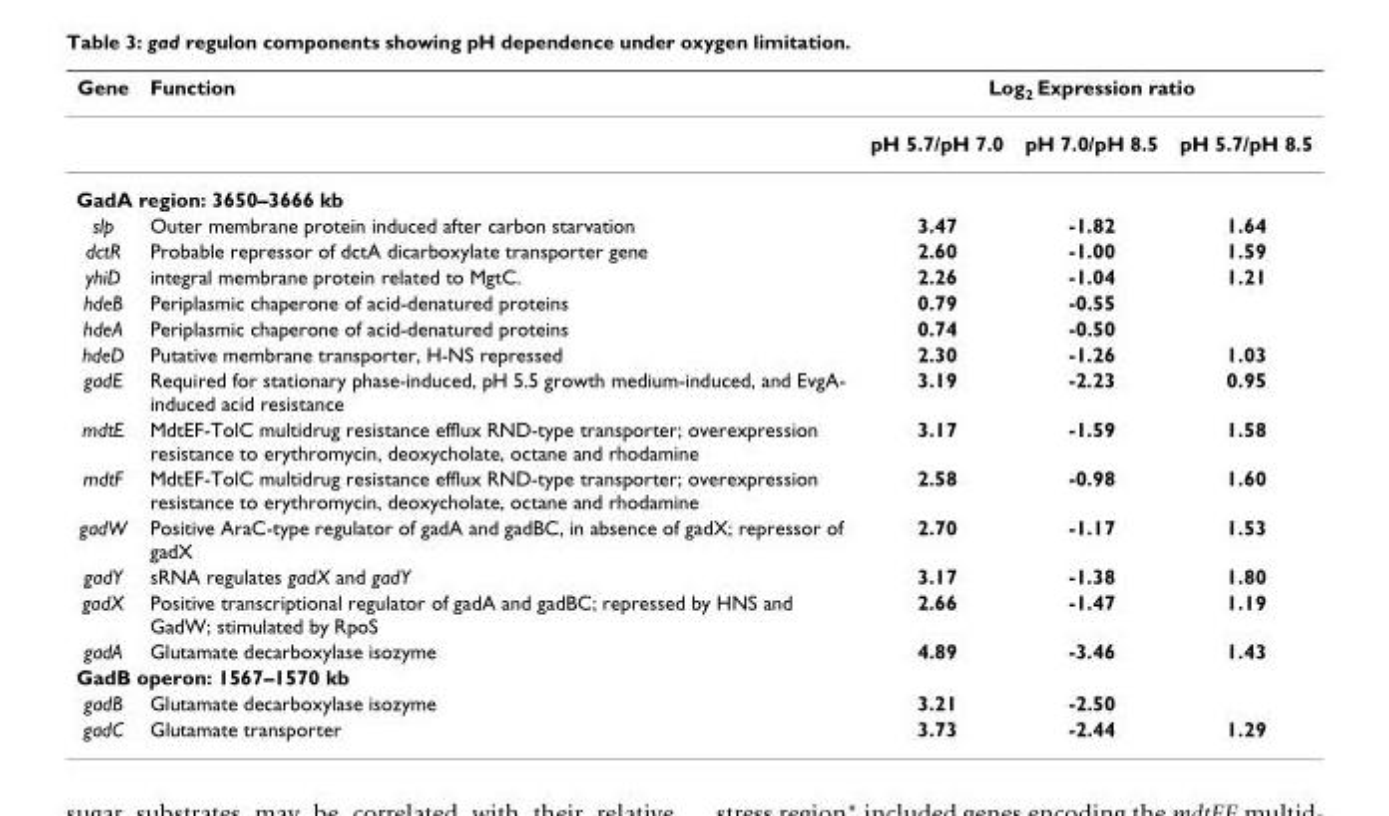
<table><thead><tr><td rowspan="2">Gene</td><td rowspan="2">Function</td><td colspan="3">Log2 Expression ratio</td></tr><tr><td>pH 5.7/pH 7.0</td><td>pH 7.0/pH 8.5</td><td>pH 5.7/pH 8.5</td></tr></thead><tbody><tr><td colspan="5">GadA region: 3650–3666 kb</td></tr><tr><td>slp</td><td>Outer membrane protein induced after carbon starvation</td><td>3.47</td><td>-1.82</td><td>1.64</td></tr><tr><td>dctR</td><td>Probable repressor of dctA dicarboxylate transporter gene</td><td>2.60</td><td>-1.00</td><td>1.59</td></tr><tr><td>yhiD</td><td>integral membrane protein related to MgtC.</td><td>2.26</td><td>-1.04</td><td>1.21</td></tr><tr><td>hdeB</td><td>Periplasmic chaperone of acid-denatured proteins</td><td>0.79</td><td>-0.55</td><td></td></tr><tr><td>hdeA</td><td>Periplasmic chaperone of acid-denatured proteins</td><td>0.74</td><td>-0.50</td><td></td></tr><tr><td>hdeD</td><td>Putative membrane transporter, H-NS repressed</td><td>2.30</td><td>-1.26</td><td>1.03</td></tr><tr><td>gadE</td><td>Required for stationary phase-induced, pH 5.5 growth medium-induced, and EvgA- induced acid resistance</td><td>3.19</td><td>-2.23</td><td>0.95</td></tr><tr><td>mdtE</td><td>MdtEF-TolC multidrug resistance efflux RND-type transporter; overexpression resistance to erythromycin, deoxycholate, octane and rhodamine</td><td>3.17</td><td>-1.59</td><td>1.58</td></tr><tr><td>mdtF</td><td>MdtEF-TolC multidrug resistance efflux RND-type transporter; overexpression resistance to erythromycin, deoxycholate, octane and rhodamine</td><td>2.58</td><td>-0.98</td><td>1.60</td></tr><tr><td>gadW</td><td>Positive AraC-type regulator of gadA and gadBC, in absence of gadX; repressor of gadX</td><td>2.70</td><td>-1.17</td><td>1.53</td></tr><tr><td>gadY</td><td>sRNA regulates gadX and gadY</td><td>3.17</td><td>-1.38</td><td>1.80</td></tr><tr><td>gadX</td><td>Positive transcriptional regulator of gadA and gadBC; repressed by HNS and GadW; stimulated by RpoS</td><td>2.66</td><td>-1.47</td><td>1.19</td></tr><tr><td>gadA</td><td>Glutamate decarboxylase isozyme</td><td>4.89</td><td>-3.46</td><td>1.43</td></tr><tr><td colspan="5">GadB operon: 1567–1570 kb</td></tr><tr><td>gadB</td><td>Glutamate decarboxylase isozyme</td><td>3.21</td><td>-2.50</td><td></td></tr><tr><td>gadC</td><td>Glutamate transporter</td><td>3.73</td><td>-2.44</td><td>1.29</td></tr></tbody></table>